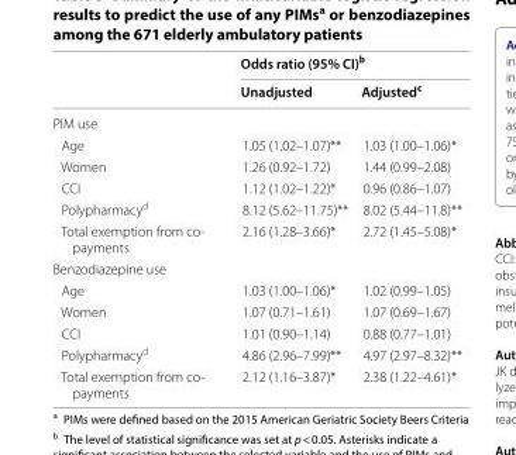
<table><thead><tr><td rowspan="2"></td><td colspan="2">Odds ratio (95% CI)<sup>b</sup></td></tr><tr><td>Unadjusted</td><td>Adjusted<sup>c</sup></td></tr></thead><tbody><tr><td colspan="3">PIM use</td></tr><tr><td>Age</td><td>1.05 (1.02–1.07)**</td><td>1.03 (1.00–1.06)*</td></tr><tr><td>Women</td><td>1.26 (0.92–1.72)</td><td>1.44 (0.99–2.08)</td></tr><tr><td>CCI</td><td>1.12 (1.02–1.22)*</td><td>0.96 (0.86–1.07)</td></tr><tr><td>Polypharmacy<sup>d</sup></td><td>8.12 (5.62–11.75)**</td><td>8.02 (5.44–11.8)**</td></tr><tr><td>Total exemption from co- payments</td><td>2.16 (1.28–3.66)*</td><td>2.72 (1.45–5.08)*</td></tr><tr><td colspan="3">Benzodiazepine use</td></tr><tr><td>Age</td><td>1.03 (1.00–1.06)*</td><td>1.02 (0.99–1.05)</td></tr><tr><td>Women</td><td>1.07 (0.71–1.61)</td><td>1.07 (0.69–1.67)</td></tr><tr><td>CCI</td><td>1.01 (0.90–1.14)</td><td>0.88 (0.77–1.01)</td></tr><tr><td>Polypharmacy<sup>d</sup></td><td>4.86 (2.96–7.99)**</td><td>4.97 (2.97–8.32)**</td></tr><tr><td>Total exemption from co- payments</td><td>2.12 (1.16–3.87)*</td><td>2.38 (1.22–4.61)*</td></tr></tbody></table>